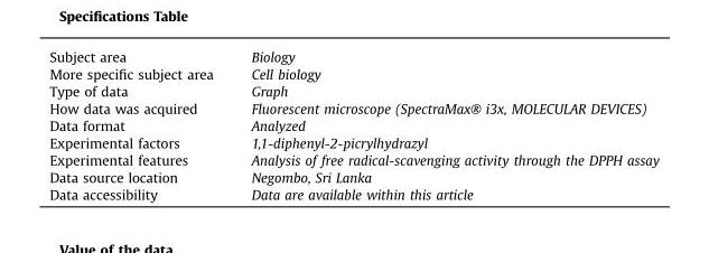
<table><tbody><tr><td>Subject area</td><td>Biology</td></tr><tr><td>More specific subject area</td><td>Cell biology</td></tr><tr><td>Type of data</td><td>Graph</td></tr><tr><td>How data was acquired</td><td>Fluorescent microscope (SpectraMax® i3x, MOLECULAR DEVICES)</td></tr><tr><td>Data format</td><td>Analyzed</td></tr><tr><td>Experimental factors</td><td>1,1-diphenyl-2-picrylhydrazyl</td></tr><tr><td>Experimental features</td><td>Analysis of free radical-scavenging activity through the DPPH assay</td></tr><tr><td>Data source location</td><td>Negombo, Sri Lanka</td></tr><tr><td>Data accessibility</td><td>Data are available within this article</td></tr></tbody></table>